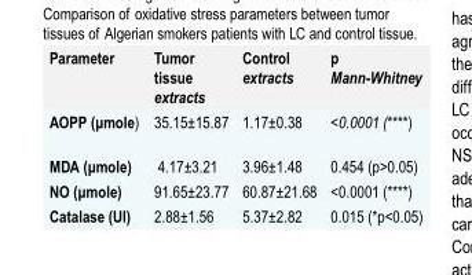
<table><thead><tr><td>Parameter</td><td>Tumor tissue extracts</td><td>Control extracts</td><td>p Mann-Whitney</td></tr></thead><tbody><tr><td>AOPP (µmole)</td><td>35.15±15.87</td><td>1.17±0.38</td><td>&lt;0.0001 (****)</td></tr><tr><td>MDA (µmole)</td><td>4.17±3.21</td><td>3.96±1.48</td><td>0.454 (p&gt;0.05)</td></tr><tr><td>NO (µmole)</td><td>91.65±23.77</td><td>60.87±21.68</td><td>&lt;0.0001 (****)</td></tr><tr><td>Catalase (UI)</td><td>2.88±1.56</td><td>5.37±2.82</td><td>0.015 (*p&lt;0.05)</td></tr></tbody></table>